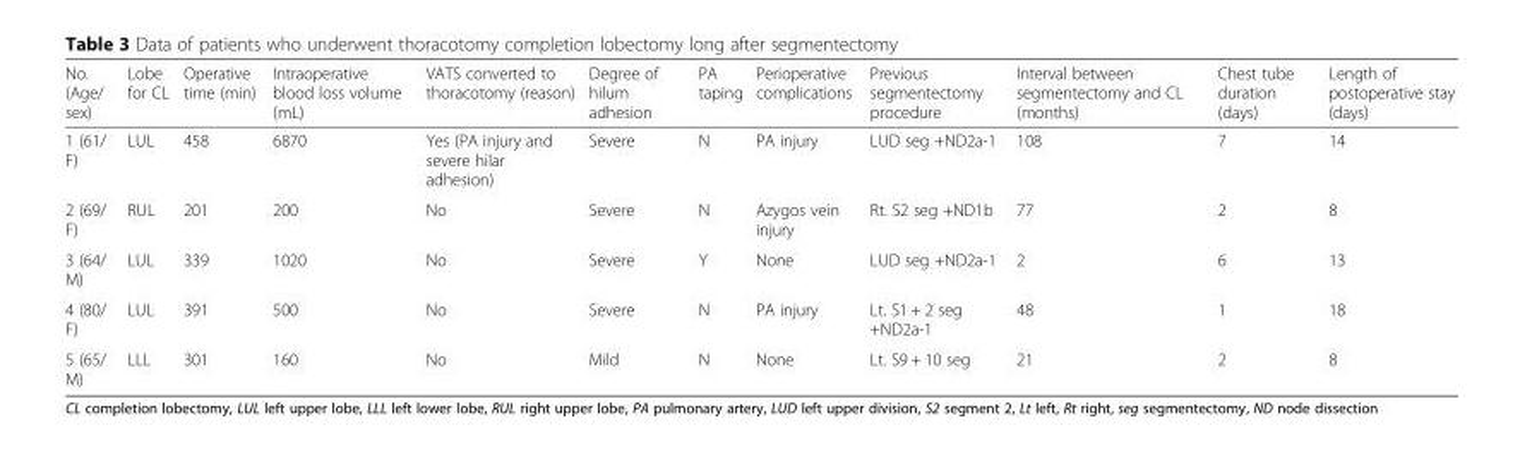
<table><thead><tr><td>No. (Age/ sex)</td><td>Lobe for CL</td><td>Operative time (min)</td><td>Intraoperative blood loss volume (mL)</td><td>VATS converted to thoracotomy (reason)</td><td>Degree of hilum adhesion</td><td>PA taping</td><td>Perioperative complications</td><td>Previous segmentectomy procedure</td><td>Interval between segmentectomy and CL (months)</td><td>Chest tube duration (days)</td><td>Length of postoperative stay (days)</td></tr></thead><tbody><tr><td>1 (61/ F)</td><td>LUL</td><td>458</td><td>6870</td><td>Yes (PA injury and severe hilar adhesion)</td><td>Severe</td><td>N</td><td>PA injury</td><td>LUD seg +ND2a-1</td><td>108</td><td>7</td><td>14</td></tr><tr><td>2 (69/ F)</td><td>RUL</td><td>201</td><td>200</td><td>No</td><td>Severe</td><td>N</td><td>Azygos vein injury</td><td>Rt. S2 seg +ND1b</td><td>77</td><td>2</td><td>8</td></tr><tr><td>3 (64/ M)</td><td>LUL</td><td>339</td><td>1020</td><td>No</td><td>Severe</td><td>Y</td><td>None</td><td>LUD seg +ND2a-1</td><td>2</td><td>6</td><td>13</td></tr><tr><td>4 (80/ F)</td><td>LUL</td><td>391</td><td>500</td><td>No</td><td>Severe</td><td>N</td><td>PA injury</td><td>Lt. S1 + 2 seg +ND2a-1</td><td>48</td><td>1</td><td>18</td></tr><tr><td>5 (65/ M)</td><td>LLL</td><td>301</td><td>160</td><td>No</td><td>Mild</td><td>N</td><td>None</td><td>Lt. S9 + 10 seg</td><td>21</td><td>2</td><td>8</td></tr></tbody></table>